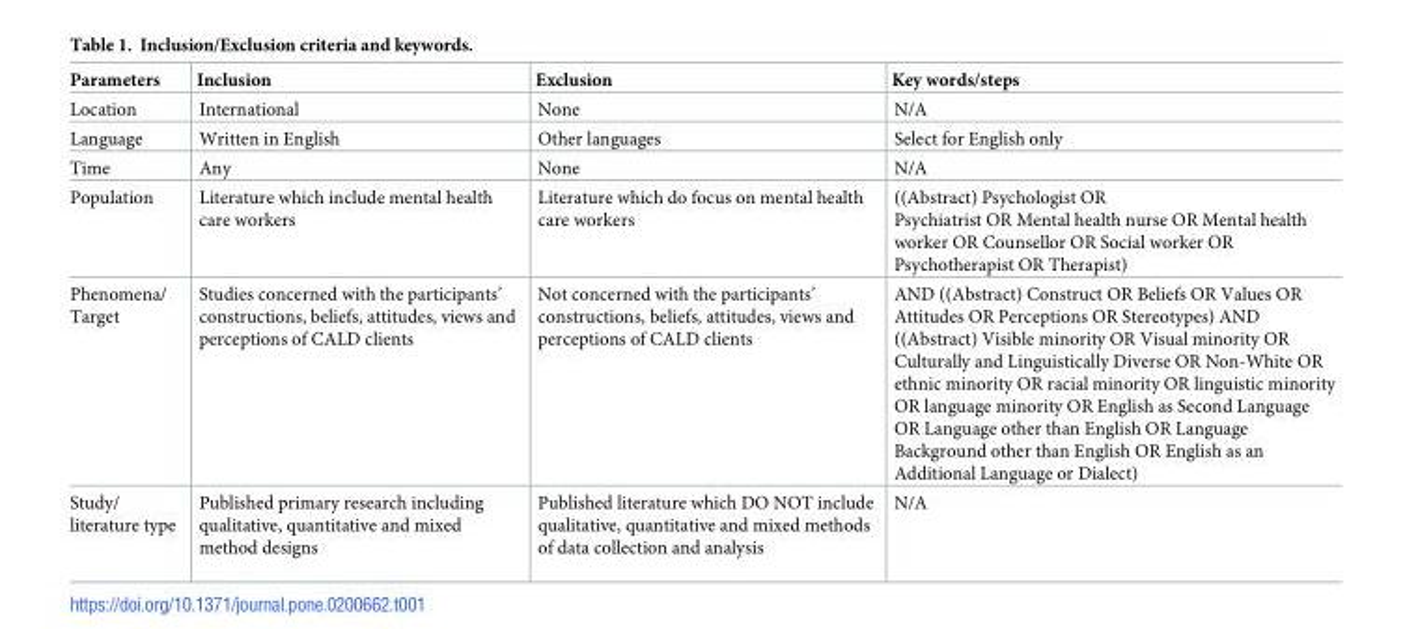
<table><thead><tr><td>Parameters</td><td>Inclusion</td><td>Exclusion</td><td>Key words/steps</td></tr></thead><tbody><tr><td>Location</td><td>International</td><td>None</td><td>N/A</td></tr><tr><td>Language</td><td>Written in English</td><td>Other languages</td><td>Select for English only</td></tr><tr><td>Time</td><td>Any</td><td>None</td><td>N/A</td></tr><tr><td>Population</td><td>Literature which include mental health care workers</td><td>Literature which do focus on mental health care workers</td><td>((Abstract) Psychologist OR Psychiatrist OR Mental health nurse OR Mental health worker OR Counsellor OR Social worker OR Psychotherapist OR Therapist)</td></tr><tr><td>Phenomena/ Target</td><td>Studies concerned with the participants’ constructions, beliefs, attitudes, views and perceptions of CALD clients</td><td>Not concerned with the participants’ constructions, beliefs, attitudes, views and perceptions of CALD clients</td><td>AND ((Abstract) Construct OR Beliefs OR Values OR Attitudes OR Perceptions OR Stereotypes) AND ((Abstract) Visible minority OR Visual minority OR Culturally and Linguistically Diverse OR Non-White OR ethnic minority OR racial minority OR linguistic minority OR language minority OR English as Second Language OR Language other than English OR Language Background other than English OR English as an Additional Language or Dialect)</td></tr><tr><td>Study/ literature type</td><td>Published primary research including qualitative, quantitative and mixed method designs</td><td>Published literature which DO NOT include qualitative, quantitative and mixed methods of data collection and analysis</td><td>N/A</td></tr></tbody></table>